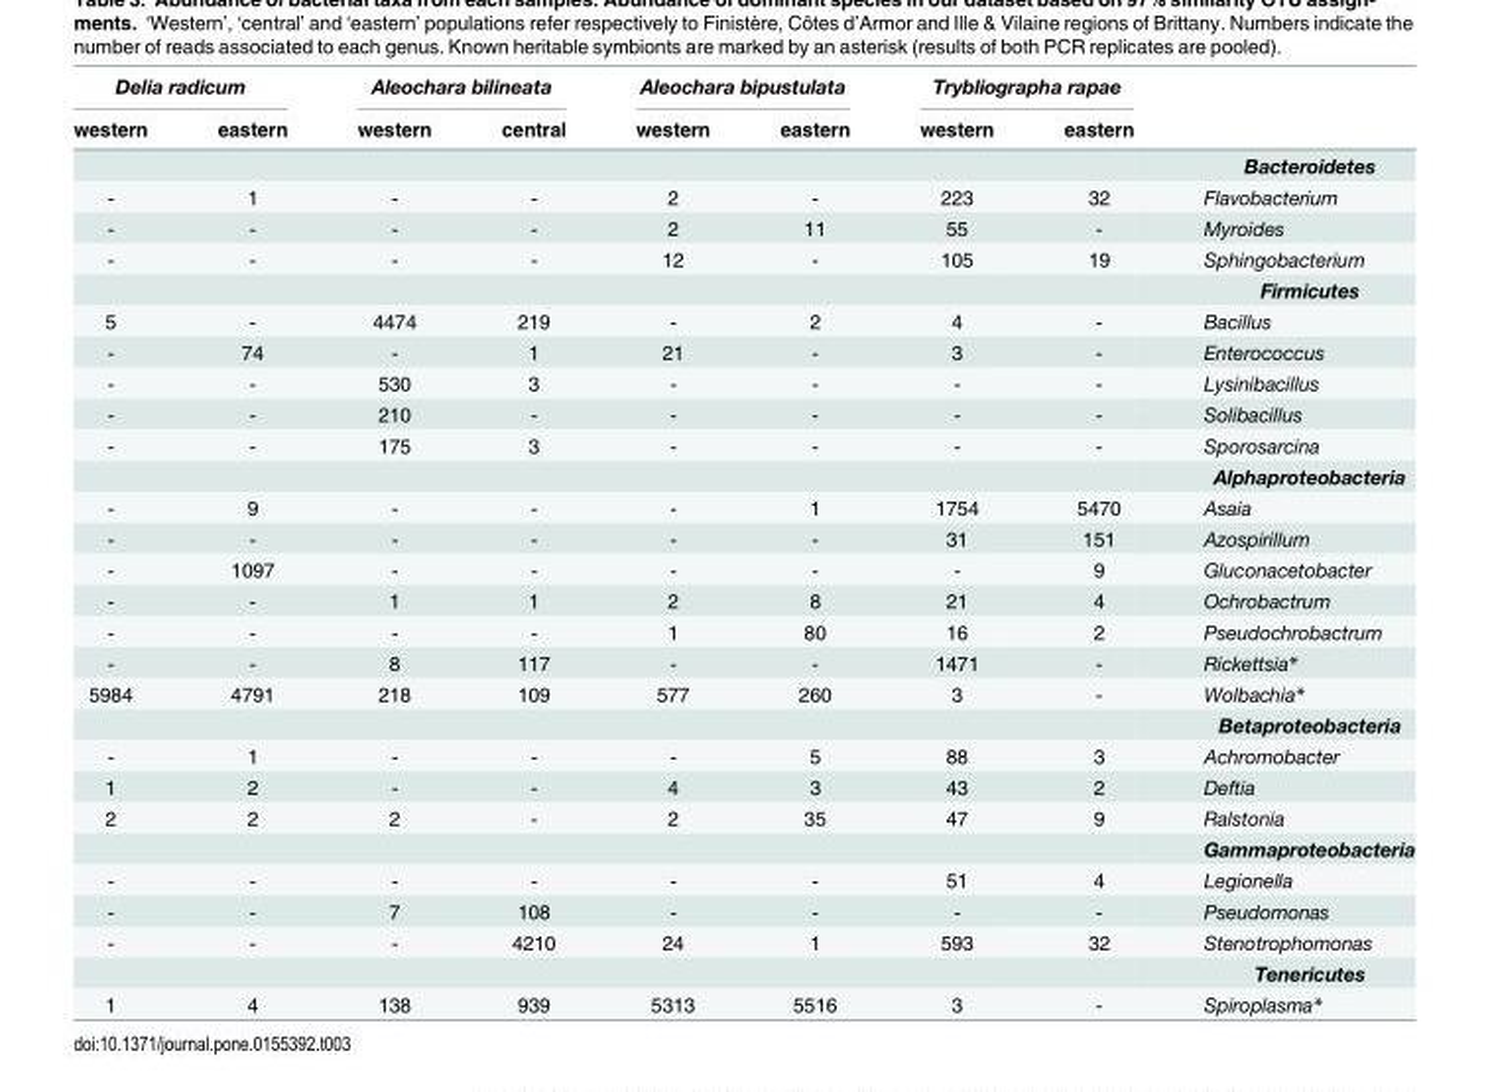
<table><thead><tr><td colspan="2">Delia radicum</td><td colspan="2">Aleochara bilineata</td><td colspan="2">Aleochara bipustulata</td><td colspan="2">Trybliographa rapae</td><td rowspan="2"></td></tr><tr><td>western</td><td>eastern</td><td>western</td><td>central</td><td>western</td><td>eastern</td><td>western</td><td>eastern</td></tr></thead><tbody><tr><td></td><td></td><td></td><td></td><td></td><td></td><td></td><td></td><td>Bacteroidetes</td></tr><tr><td>-</td><td>1</td><td>-</td><td>-</td><td>2</td><td>-</td><td>223</td><td>32</td><td>Flavobacterium</td></tr><tr><td>-</td><td>-</td><td>-</td><td>-</td><td>2</td><td>11</td><td>55</td><td>-</td><td>Myroides</td></tr><tr><td rowspan="2">-</td><td>-</td><td>-</td><td>-</td><td>12</td><td>-</td><td>105</td><td>19</td><td>Sphingobacterium</td></tr><tr><td></td><td></td><td></td><td></td><td></td><td></td><td></td><td>Firmicutes</td></tr><tr><td>5</td><td>-</td><td>4474</td><td>219</td><td>-</td><td>2</td><td>4</td><td>-</td><td>Bacillus</td></tr><tr><td>-</td><td>74</td><td>-</td><td>1</td><td>21</td><td>-</td><td>3</td><td>-</td><td>Enterococcus</td></tr><tr><td>-</td><td>-</td><td>530</td><td>3</td><td>-</td><td>-</td><td>-</td><td>-</td><td>Lysinibacillus</td></tr><tr><td>-</td><td>-</td><td>210</td><td>-</td><td>-</td><td>-</td><td>-</td><td>-</td><td>Solibacillus</td></tr><tr><td rowspan="2">-</td><td>-</td><td>175</td><td>3</td><td>-</td><td>-</td><td>-</td><td>-</td><td>Sporosarcina</td></tr><tr><td></td><td></td><td></td><td></td><td></td><td></td><td></td><td>Alphaproteobacteria</td></tr><tr><td>-</td><td>9</td><td>-</td><td>-</td><td>-</td><td>1</td><td>1754</td><td>5470</td><td>Asaia</td></tr><tr><td>-</td><td>-</td><td>-</td><td>-</td><td>-</td><td>-</td><td>31</td><td>151</td><td>Azospirillum</td></tr><tr><td>-</td><td>1097</td><td>-</td><td>-</td><td>-</td><td>-</td><td>-</td><td>9</td><td>Gluconacetobacter</td></tr><tr><td>-</td><td>-</td><td>1</td><td>1</td><td>2</td><td>8</td><td>21</td><td>4</td><td>Ochrobactrum</td></tr><tr><td>-</td><td>-</td><td>-</td><td>-</td><td>1</td><td>80</td><td>16</td><td>2</td><td>Pseudochrobactrum</td></tr><tr><td>-</td><td>-</td><td>8</td><td>117</td><td>-</td><td>-</td><td>1471</td><td>-</td><td>Rickettsia*</td></tr><tr><td rowspan="2">5984</td><td>4791</td><td>218</td><td>109</td><td>577</td><td>260</td><td>3</td><td>-</td><td>Wolbachia*</td></tr><tr><td></td><td></td><td></td><td></td><td></td><td></td><td></td><td>Betaproteobacteria</td></tr><tr><td>-</td><td>1</td><td>-</td><td>-</td><td>-</td><td>5</td><td>88</td><td>3</td><td>Achromobacter</td></tr><tr><td>1</td><td>2</td><td>-</td><td>-</td><td>4</td><td>3</td><td>43</td><td>2</td><td>Deftia</td></tr><tr><td rowspan="2">2</td><td>2</td><td>2</td><td>-</td><td>2</td><td>35</td><td>47</td><td>9</td><td>Ralstonia</td></tr><tr><td></td><td></td><td></td><td></td><td></td><td></td><td></td><td>Gammaproteobacteria</td></tr><tr><td>-</td><td>-</td><td>-</td><td>-</td><td>-</td><td>-</td><td>51</td><td>4</td><td>Legionella</td></tr><tr><td>-</td><td>-</td><td>7</td><td>108</td><td>-</td><td>-</td><td>-</td><td>-</td><td>Pseudomonas</td></tr><tr><td rowspan="2">-</td><td>-</td><td>-</td><td>4210</td><td>24</td><td>1</td><td>593</td><td>32</td><td>Stenotrophomonas</td></tr><tr><td></td><td></td><td></td><td></td><td></td><td></td><td></td><td>Tenericutes</td></tr><tr><td>1</td><td>4</td><td>138</td><td>939</td><td>5313</td><td>5516</td><td>3</td><td>-</td><td>Spiroplasma*</td></tr></tbody></table>